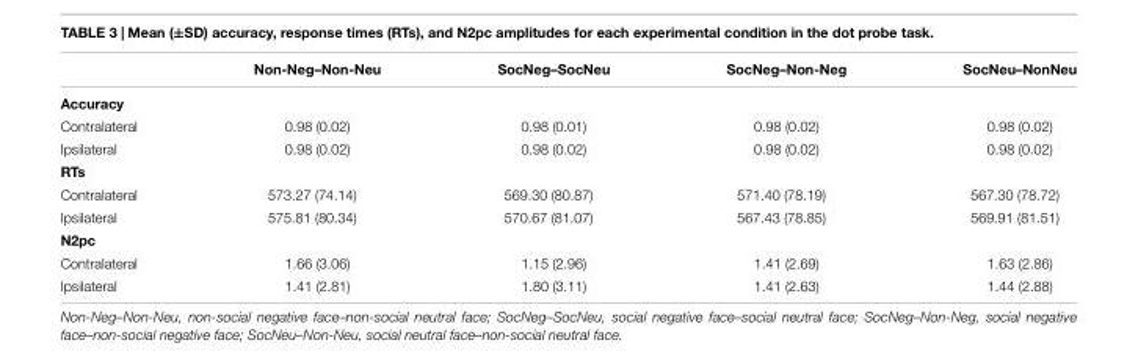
<table><thead><tr><td></td><td>Non-Neg–Non-Neu</td><td>SocNeg–SocNeu</td><td>SocNeg–Non-Neg</td><td>SocNeu–NonNeu</td></tr></thead><tbody><tr><td colspan="5">Accuracy</td></tr><tr><td>Contralateral</td><td>0.98 (0.02)</td><td>0.98 (0.01)</td><td>0.98 (0.02)</td><td>0.98 (0.02)</td></tr><tr><td>Ipsilateral</td><td>0.98 (0.02)</td><td>0.98 (0.02)</td><td>0.98 (0.02)</td><td>0.98 (0.02)</td></tr><tr><td colspan="5">RTs</td></tr><tr><td>Contralateral</td><td>573.27 (74.14)</td><td>569.30 (80.87)</td><td>571.40 (78.19)</td><td>567.30 (78.72)</td></tr><tr><td>Ipsilateral</td><td>575.81 (80.34)</td><td>570.67 (81.07)</td><td>567.43 (78.85)</td><td>569.91 (81.51)</td></tr><tr><td colspan="5">N2pc</td></tr><tr><td>Contralateral</td><td>1.66 (3.06)</td><td>1.15 (2.96)</td><td>1.41 (2.69)</td><td>1.63 (2.86)</td></tr><tr><td>Ipsilateral</td><td>1.41 (2.81)</td><td>1.80 (3.11)</td><td>1.41 (2.63)</td><td>1.44 (2.88)</td></tr></tbody></table>